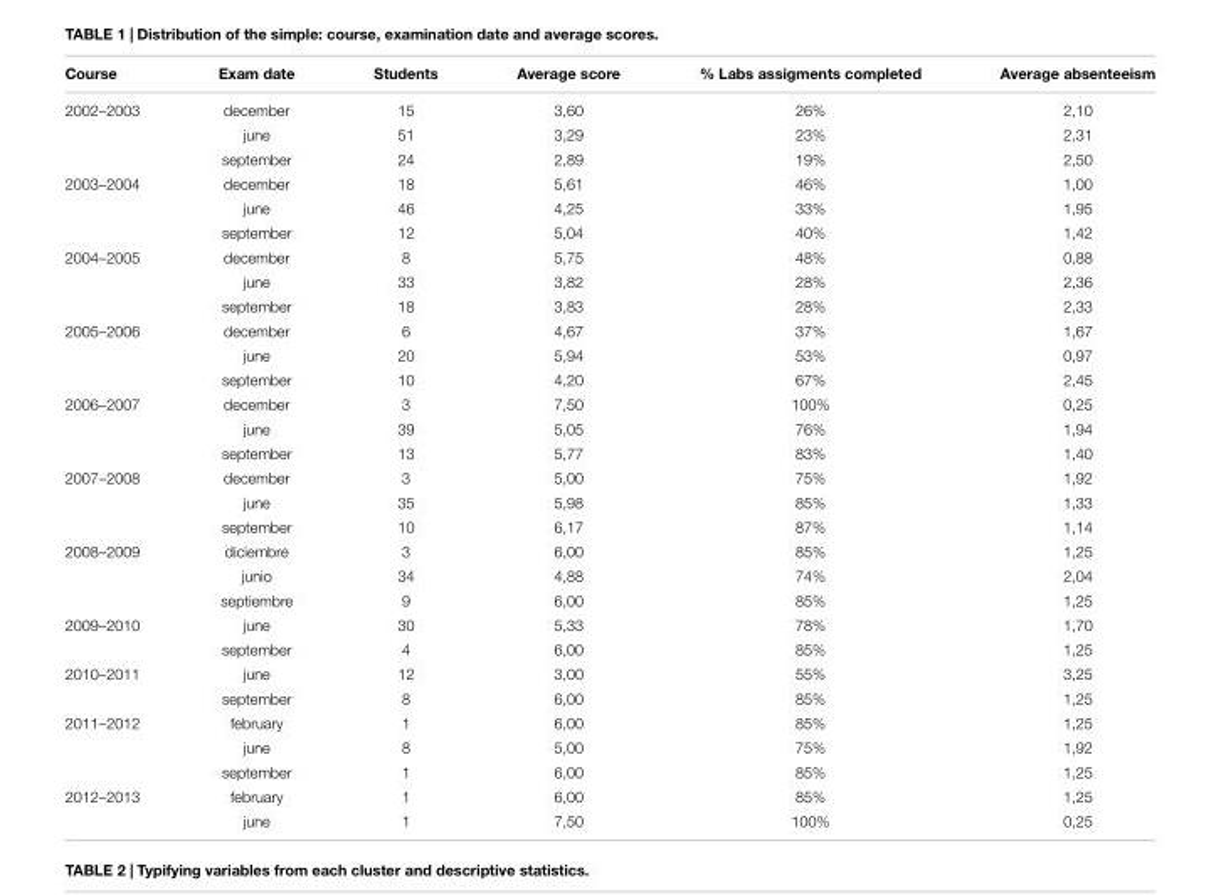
<table><thead><tr><td>Course</td><td>Exam date</td><td>Students</td><td>Average score</td><td>% Labs assigments completed</td><td>Average absenteeism</td></tr></thead><tbody><tr><td rowspan="3">2002–2003</td><td>december</td><td>15</td><td>3,60</td><td>26%</td><td>2,10</td></tr><tr><td>june</td><td>51</td><td>3,29</td><td>23%</td><td>2,31</td></tr><tr><td>september</td><td>24</td><td>2,89</td><td>19%</td><td>2,50</td></tr><tr><td rowspan="3">2003–2004</td><td>december</td><td>18</td><td>5,61</td><td>46%</td><td>1,00</td></tr><tr><td>june</td><td>46</td><td>4,25</td><td>33%</td><td>1,95</td></tr><tr><td>september</td><td>12</td><td>5,04</td><td>40%</td><td>1,42</td></tr><tr><td rowspan="3">2004–2005</td><td>december</td><td>8</td><td>5,75</td><td>48%</td><td>0,88</td></tr><tr><td>june</td><td>33</td><td>3,82</td><td>28%</td><td>2,36</td></tr><tr><td>september</td><td>18</td><td>3,83</td><td>28%</td><td>2,33</td></tr><tr><td rowspan="3">2005–2006</td><td>december</td><td>6</td><td>4,67</td><td>37%</td><td>1,67</td></tr><tr><td>june</td><td>20</td><td>5,94</td><td>53%</td><td>0,97</td></tr><tr><td>september</td><td>10</td><td>4,20</td><td>67%</td><td>2,45</td></tr><tr><td rowspan="3">2006–2007</td><td>december</td><td>3</td><td>7,50</td><td>100%</td><td>0,25</td></tr><tr><td>june</td><td>39</td><td>5,05</td><td>76%</td><td>1,94</td></tr><tr><td>september</td><td>13</td><td>5,77</td><td>83%</td><td>1,40</td></tr><tr><td rowspan="3">2007–2008</td><td>december</td><td>3</td><td>5,00</td><td>75%</td><td>1,92</td></tr><tr><td>june</td><td>35</td><td>5,98</td><td>85%</td><td>1,33</td></tr><tr><td>september</td><td>10</td><td>6,17</td><td>87%</td><td>1,14</td></tr><tr><td rowspan="3">2008–2009</td><td>diciembre</td><td>3</td><td>6,00</td><td>85%</td><td>1,25</td></tr><tr><td>junio</td><td>34</td><td>4,88</td><td>74%</td><td>2,04</td></tr><tr><td>septiembre</td><td>9</td><td>6,00</td><td>85%</td><td>1,25</td></tr><tr><td rowspan="2">2009–2010</td><td>june</td><td>30</td><td>5,33</td><td>78%</td><td>1,70</td></tr><tr><td>september</td><td>4</td><td>6,00</td><td>85%</td><td>1,25</td></tr><tr><td rowspan="2">2010–2011</td><td>june</td><td>12</td><td>3,00</td><td>55%</td><td>3,25</td></tr><tr><td>september</td><td>8</td><td>6,00</td><td>85%</td><td>1,25</td></tr><tr><td rowspan="3">2011–2012</td><td>february</td><td>1</td><td>6,00</td><td>85%</td><td>1,25</td></tr><tr><td>june</td><td>8</td><td>5,00</td><td>75%</td><td>1,92</td></tr><tr><td>september</td><td>1</td><td>6,00</td><td>85%</td><td>1,25</td></tr><tr><td rowspan="2">2012–2013</td><td>february</td><td>1</td><td>6,00</td><td>85%</td><td>1,25</td></tr><tr><td>june</td><td>1</td><td>7,50</td><td>100%</td><td>0,25</td></tr></tbody></table>